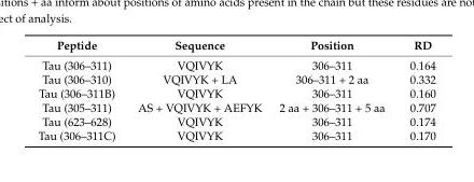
<table><thead><tr><td>Peptide</td><td>Sequence</td><td>Position</td><td>RD</td></tr></thead><tbody><tr><td>Tau (306–311)</td><td>VQIVYK</td><td>306–311</td><td>0.164</td></tr><tr><td>Tau (306–310)</td><td>VQIVYK + LA</td><td>306–311 + 2 aa</td><td>0.332</td></tr><tr><td>Tau (306–311B)</td><td>VQIVYK</td><td>306–311</td><td>0.160</td></tr><tr><td>Tau (305–311)</td><td>AS + VQIVYK + AEFYK</td><td>2 aa + 306–311 + 5 aa</td><td>0.707</td></tr><tr><td>Tau (623–628)</td><td>VQIVYK</td><td>306–311</td><td>0.174</td></tr><tr><td>Tau (306–311C)</td><td>VQIVYK</td><td>306–311</td><td>0.170</td></tr></tbody></table>